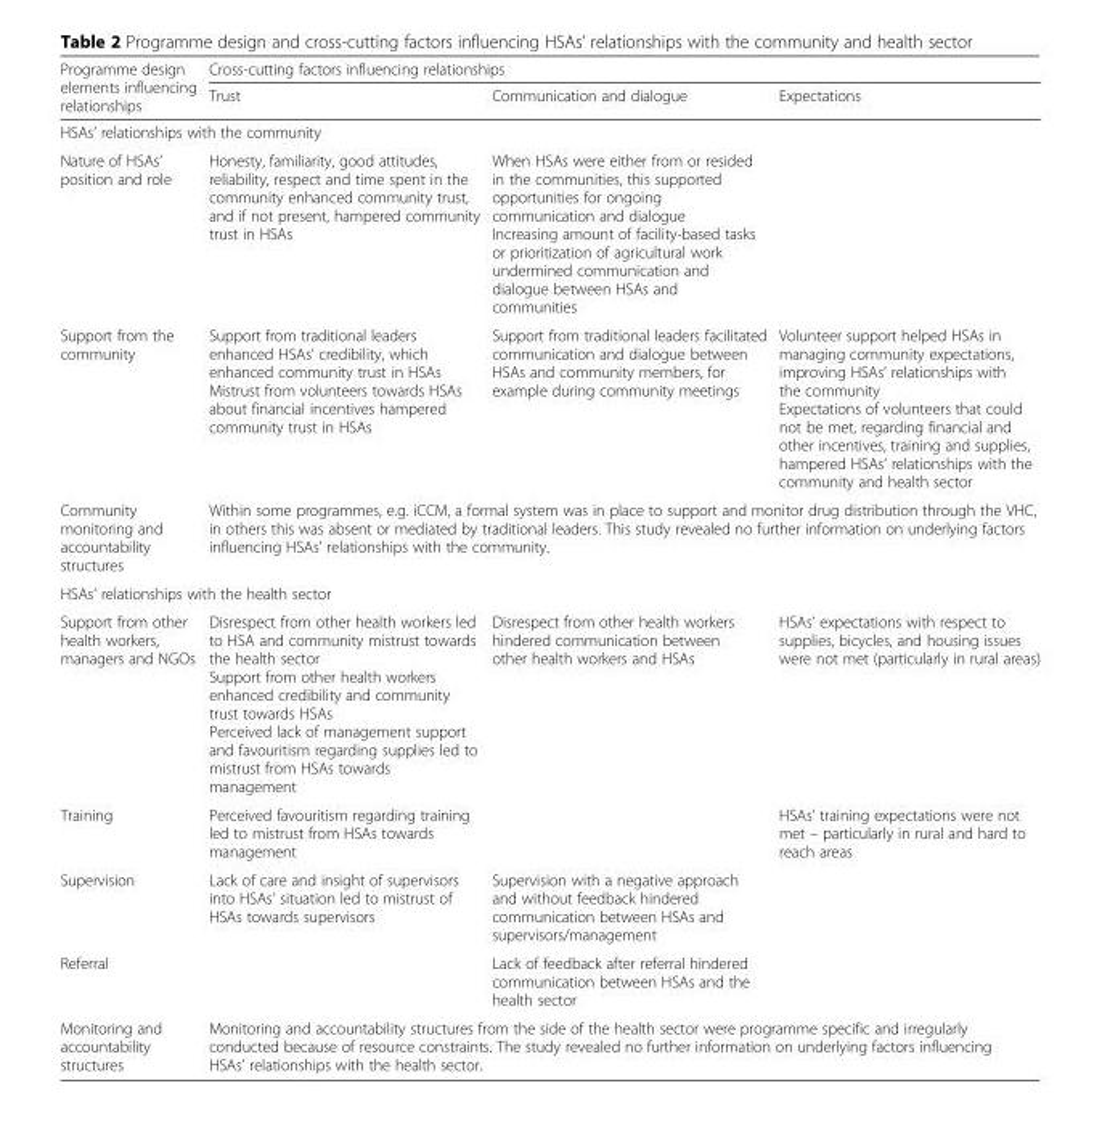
<table><thead><tr><td rowspan="2">Programme design elements influencing relationships</td><td colspan="3">Cross-cutting factors influencing relationships</td></tr><tr><td>Trust</td><td>Communication and dialogue</td><td>Expectations</td></tr></thead><tbody><tr><td colspan="4">HSAs’ relationships with the community</td></tr><tr><td>Nature of HSAs’ position and role</td><td>Honesty, familiarity, good attitudes, reliability, respect and time spent in the community enhanced community trust, and if not present, hampered community trust in HSAs</td><td>When HSAs were either from or resided in the communities, this supported opportunities for ongoing communication and dialogue Increasing amount of facility-based tasks or prioritization of agricultural work undermined communication and dialogue between HSAs and communities</td><td></td></tr><tr><td>Support from the community</td><td>Support from traditional leaders enhanced HSAs’ credibility, which enhanced community trust in HSAs Mistrust from volunteers towards HSAs about financial incentives hampered community trust in HSAs</td><td>Support from traditional leaders facilitated communication and dialogue between HSAs and community members, for example during community meetings</td><td>Volunteer support helped HSAs in managing community expectations, improving HSAs’ relationships with the community Expectations of volunteers that could not be met, regarding financial and other incentives, training and supplies, hampered HSAs’ relationships with the community and health sector</td></tr><tr><td>Community monitoring and accountability structures</td><td colspan="3">Within some programmes, e.g. iCCM, a formal system was in place to support and monitor drug distribution through the VHC, in others this was absent or mediated by traditional leaders. This study revealed no further information on underlying factors influencing HSAs’ relationships with the community.</td></tr><tr><td colspan="4">HSAs’ relationships with the health sector</td></tr><tr><td>Support from other health workers, managers and NGOs</td><td>Disrespect from other health workers led to HSA and community mistrust towards the health sector Support from other health workers enhanced credibility and community trust towards HSAs Perceived lack of management support and favouritism regarding supplies led to mistrust from HSAs towards management</td><td>Disrespect from other health workers hindered communication between other health workers and HSAs</td><td>HSAs’ expectations with respect to supplies, bicycles, and housing issues were not met (particularly in rural areas)</td></tr><tr><td>Training</td><td>Perceived favouritism regarding training led to mistrust from HSAs towards management</td><td></td><td>HSAs’ training expectations were not met – particularly in rural and hard to reach areas</td></tr><tr><td>Supervision</td><td>Lack of care and insight of supervisors into HSAs’ situation led to mistrust of HSAs towards supervisors</td><td>Supervision with a negative approach and without feedback hindered communication between HSAs and supervisors/management</td><td></td></tr><tr><td>Referral</td><td></td><td>Lack of feedback after referral hindered communication between HSAs and the health sector</td><td></td></tr><tr><td>Monitoring and accountability structures</td><td colspan="3">Monitoring and accountability structures from the side of the health sector were programme specific and irregularly conducted because of resource constraints. The study revealed no further information on underlying factors influencing HSAs’ relationships with the health sector.</td></tr></tbody></table>